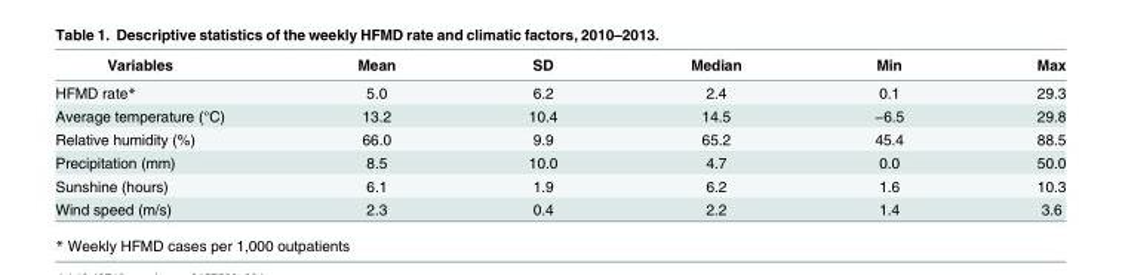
<table><thead><tr><td>Variables</td><td>Mean</td><td>SD</td><td>Median</td><td>Min</td><td>Max</td></tr></thead><tbody><tr><td>HFMD rate*</td><td>5.0</td><td>6.2</td><td>2.4</td><td>0.1</td><td>29.3</td></tr><tr><td>Average temperature (°C)</td><td>13.2</td><td>10.4</td><td>14.5</td><td>−6.5</td><td>29.8</td></tr><tr><td>Relative humidity (%)</td><td>66.0</td><td>9.9</td><td>65.2</td><td>45.4</td><td>88.5</td></tr><tr><td>Precipitation (mm)</td><td>8.5</td><td>10.0</td><td>4.7</td><td>0.0</td><td>50.0</td></tr><tr><td>Sunshine (hours)</td><td>6.1</td><td>1.9</td><td>6.2</td><td>1.6</td><td>10.3</td></tr><tr><td>Wind speed (m/s)</td><td>2.3</td><td>0.4</td><td>2.2</td><td>1.4</td><td>3.6</td></tr></tbody></table>